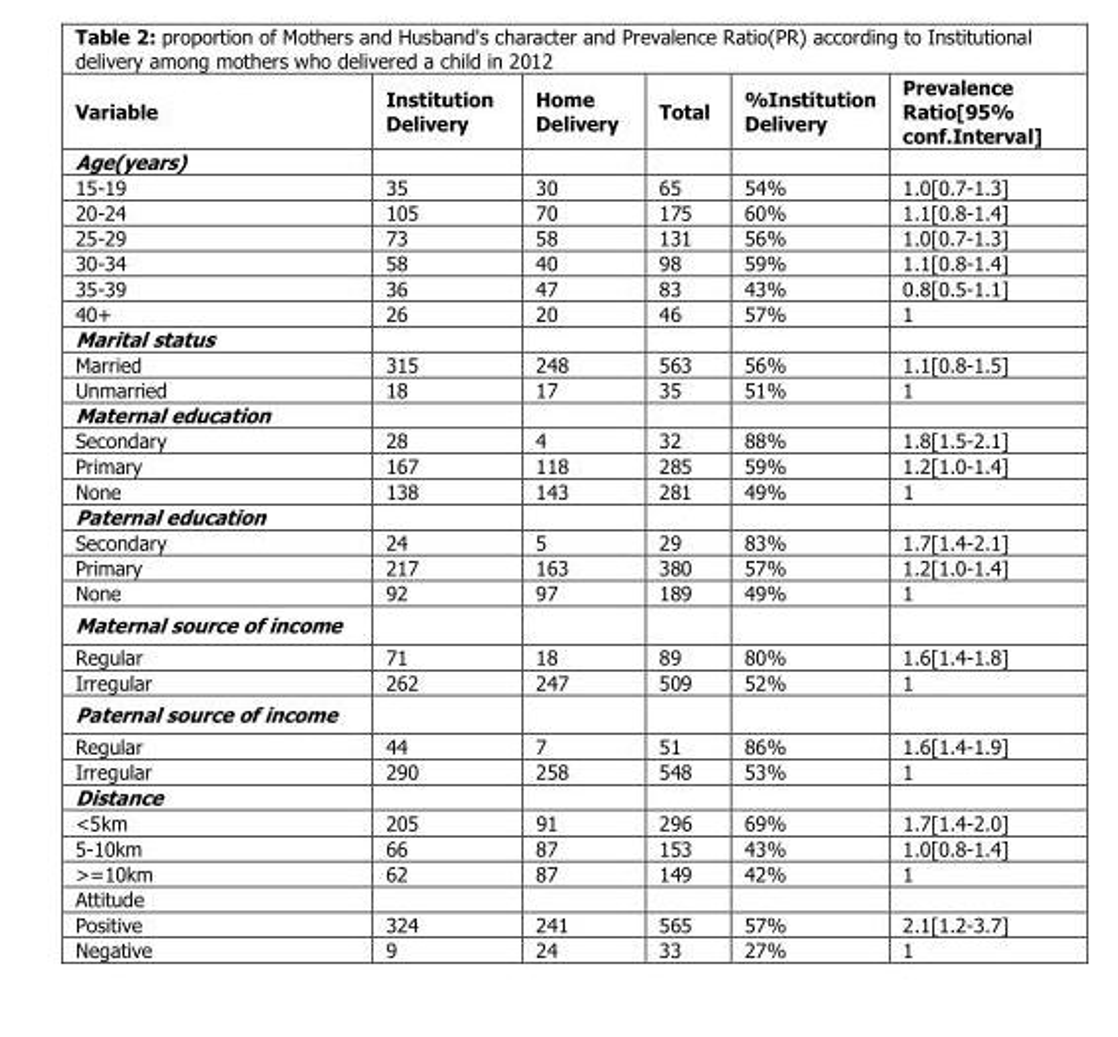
<table><thead><tr><td>Variable</td><td>Institution Delivery</td><td>Home Delivery</td><td>Total</td><td>%Institution Delivery</td><td>Prevalence Ratio[95% conf.Interval]</td></tr></thead><tbody><tr><td colspan="6">Age(years)</td></tr><tr><td>15-19</td><td>35</td><td>30</td><td>65</td><td>54%</td><td>1.0[0.7-1.3]</td></tr><tr><td>20-24</td><td>105</td><td>70</td><td>175</td><td>60%</td><td>1.1[0.8-1.4]</td></tr><tr><td>25-29</td><td>73</td><td>58</td><td>131</td><td>56%</td><td>1.0[0.7-1.3]</td></tr><tr><td>30-34</td><td>58</td><td>40</td><td>98</td><td>59%</td><td>1.1[0.8-1.4]</td></tr><tr><td>35-39</td><td>36</td><td>47</td><td>83</td><td>43%</td><td>0.8[0.5-1.1]</td></tr><tr><td>40+</td><td>26</td><td>20</td><td>46</td><td>57%</td><td>1</td></tr><tr><td colspan="6">Marital status</td></tr><tr><td>Married</td><td>315</td><td>248</td><td>563</td><td>56%</td><td>1.1[0.8-1.5]</td></tr><tr><td>Unmarried</td><td>18</td><td>17</td><td>35</td><td>51%</td><td>1</td></tr><tr><td colspan="6">Maternal education</td></tr><tr><td>Secondary</td><td>28</td><td>4</td><td>32</td><td>88%</td><td>1.8[1.5-2.1]</td></tr><tr><td>Primary</td><td>167</td><td>118</td><td>285</td><td>59%</td><td>1.2[1.0-1.4]</td></tr><tr><td>None</td><td>138</td><td>143</td><td>281</td><td>49%</td><td>1</td></tr><tr><td colspan="6">Paternal education</td></tr><tr><td>Secondary</td><td>24</td><td>5</td><td>29</td><td>83%</td><td>1.7[1.4-2.1]</td></tr><tr><td>Primary</td><td>217</td><td>163</td><td>380</td><td>57%</td><td>1.2[1.0-1.4]</td></tr><tr><td>None</td><td>92</td><td>97</td><td>189</td><td>49%</td><td>1</td></tr><tr><td colspan="6">Maternal source of income</td></tr><tr><td>Regular</td><td>71</td><td>18</td><td>89</td><td>80%</td><td>1.6[1.4-1.8]</td></tr><tr><td>Irregular</td><td>262</td><td>247</td><td>509</td><td>52%</td><td>1</td></tr><tr><td colspan="6">Paternal source of income</td></tr><tr><td>Regular</td><td>44</td><td>7</td><td>51</td><td>86%</td><td>1.6[1.4-1.9]</td></tr><tr><td>Irregular</td><td>290</td><td>258</td><td>548</td><td>53%</td><td>1</td></tr><tr><td colspan="6">Distance</td></tr><tr><td>&lt;5km</td><td>205</td><td>91</td><td>296</td><td>69%</td><td>1.7[1.4-2.0]</td></tr><tr><td>5-10km</td><td>66</td><td>87</td><td>153</td><td>43%</td><td>1.0[0.8-1.4]</td></tr><tr><td>&gt;=10km</td><td>62</td><td>87</td><td>149</td><td>42%</td><td>1</td></tr><tr><td colspan="6">Attitude</td></tr><tr><td>Positive</td><td>324</td><td>241</td><td>565</td><td>57%</td><td>2.1[1.2-3.7]</td></tr><tr><td>Negative</td><td>9</td><td>24</td><td>33</td><td>27%</td><td>1</td></tr></tbody></table>